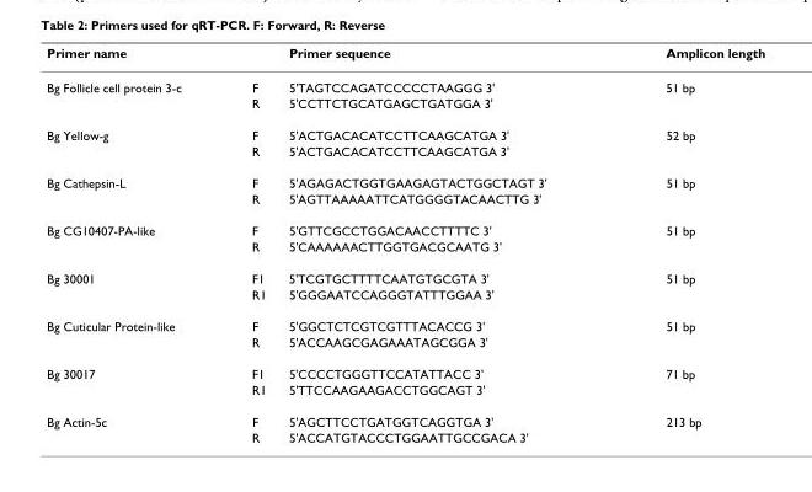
<table><thead><tr><td>Primer name</td><td></td><td>Primer sequence</td><td>Amplicon length</td></tr></thead><tbody><tr><td rowspan="2">Bg Follicle cell protein 3-c</td><td>F</td><td>5&#x27;TAGTCCAGATCCCCCTAAGGG 3&#x27;</td><td>51 bp</td></tr><tr><td>R</td><td>5&#x27;CCTTCTGCATGAGCTGATGGA 3&#x27;</td><td></td></tr><tr><td rowspan="2">Bg Yellow-g</td><td>F</td><td>5&#x27;ACTGACACATCCTTCAAGCATGA 3&#x27;</td><td>52 bp</td></tr><tr><td>R</td><td>5&#x27;ACTGACACATCCTTCAAGCATGA 3&#x27;</td><td></td></tr><tr><td rowspan="2">Bg Cathepsin-L</td><td>F</td><td>5&#x27;AGAGACTGGTGAAGAGTACTGGCTAGT 3&#x27;</td><td>51 bp</td></tr><tr><td>R</td><td>5&#x27;AGTTAAAAATTCATGGGGTACAACTTG 3&#x27;</td><td></td></tr><tr><td rowspan="2">Bg CG10407-PA-like</td><td>F</td><td>5&#x27;GTTCGCCTGGACAACCTTTTC 3&#x27;</td><td>51 bp</td></tr><tr><td>R</td><td>5&#x27;CAAAAAACTTGGTGACGCAATG 3&#x27;</td><td></td></tr><tr><td rowspan="2">Bg 30001</td><td>F1</td><td>5&#x27;TCGTGCTTTTCAATGTGCGTA 3&#x27;</td><td>51 bp</td></tr><tr><td>R1</td><td>5&#x27;GGGAATCCAGGGTATTTGGAA 3&#x27;</td><td></td></tr><tr><td rowspan="2">Bg Cuticular Protein-like</td><td>F</td><td>5&#x27;GGCTCTCGTCGTTTACACCG 3&#x27;</td><td>51 bp</td></tr><tr><td>R</td><td>5&#x27;ACCAAGCGAGAAATAGCGGA 3&#x27;</td><td></td></tr><tr><td rowspan="2">Bg 30017</td><td>F1</td><td>5&#x27;CCCCTGGGTTCCATATTACC 3&#x27;</td><td>71 bp</td></tr><tr><td>R1</td><td>5&#x27;TTCCAAGAAGACCTGGCAGT 3&#x27;</td><td></td></tr><tr><td rowspan="2">Bg Actin-5c</td><td>F</td><td>5&#x27;AGCTTCCTGATGGTCAGGTGA 3&#x27;</td><td>213 bp</td></tr><tr><td>R</td><td>5&#x27;ACCATGTACCCTGGAATTGCCGACA 3&#x27;</td><td></td></tr></tbody></table>